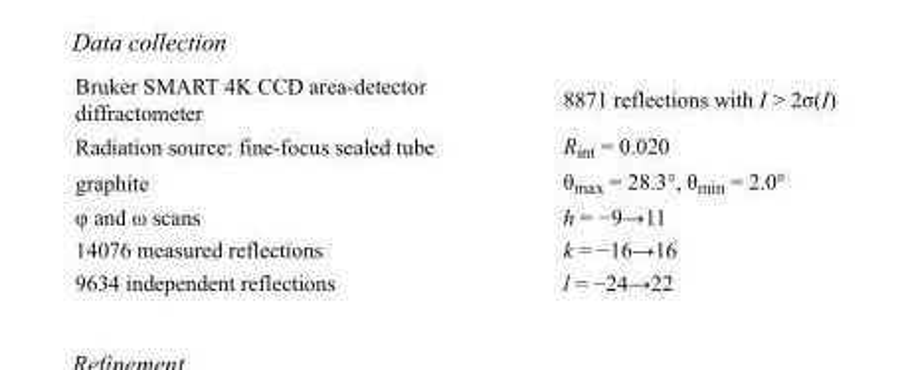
<table><tbody><tr><td>Bruker SMART 4K CCD area-detector diffractometer</td><td>8871 reflections with I &gt; 2σ(I)</td></tr><tr><td>Radiation source: fine-focus sealed tube</td><td>R<sub>int</sub> = 0.020</td></tr><tr><td>graphite</td><td>θ<sub>max</sub> = 28.3°, θ<sub>min</sub> = 2.0°</td></tr><tr><td>φ and ω scans</td><td>h = −9→11</td></tr><tr><td>14076 measured reflections</td><td>k = −16→16</td></tr><tr><td>9634 independent reflections</td><td>l = −24→22</td></tr></tbody></table>